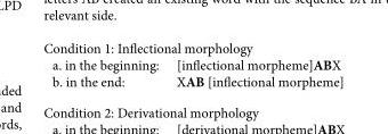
<table><tbody><tr><td colspan="2">Condition 1: Inflectional morphology</td></tr><tr><td>a. in the beginning:</td><td>[inflectional morpheme]ABX</td></tr><tr><td>b. in the end:</td><td>XAB [inflectional morpheme]</td></tr></tbody></table>